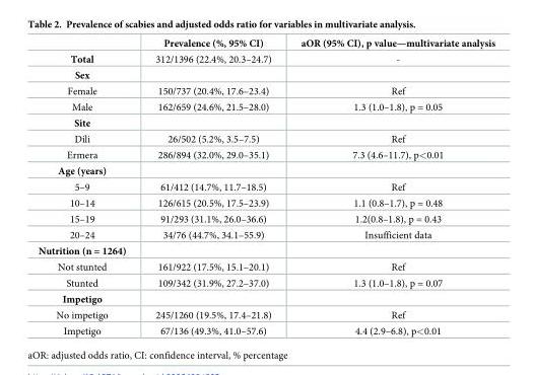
<table><thead><tr><td></td><td>Prevalence (%, 95% CI)</td><td>aOR (95% CI), p value—multivariate analysis</td></tr></thead><tbody><tr><td>Total</td><td>312/1396 (22.4%, 20.3–24.7)</td><td>-</td></tr><tr><td colspan="3">Sex</td></tr><tr><td>Female</td><td>150/737 (20.4%, 17.6–23.4)</td><td>Ref</td></tr><tr><td>Male</td><td>162/659 (24.6%, 21.5–28.0)</td><td>1.3 (1.0–1.8), p = 0.05</td></tr><tr><td colspan="3">Site</td></tr><tr><td>Dili</td><td>26/502 (5.2%, 3.5–7.5)</td><td>Ref</td></tr><tr><td>Ermera</td><td>286/894 (32.0%, 29.0–35.1)</td><td>7.3 (4.6–11.7), p&lt;0.01</td></tr><tr><td colspan="3">Age (years)</td></tr><tr><td>5–9</td><td>61/412 (14.7%, 11.7–18.5)</td><td>Ref</td></tr><tr><td>10–14</td><td>126/615 (20.5%, 17.5–23.9)</td><td>1.1 (0.8–1.7), p = 0.48</td></tr><tr><td>15–19</td><td>91/293 (31.1%, 26.0–36.6)</td><td>1.2(0.8–1.8), p = 0.43</td></tr><tr><td>20–24</td><td>34/76 (44.7%, 34.1–55.9)</td><td>Insufficient data</td></tr><tr><td colspan="3">Nutrition (n = 1264)</td></tr><tr><td>Not stunted</td><td>161/922 (17.5%, 15.1–20.1)</td><td>Ref</td></tr><tr><td>Stunted</td><td>109/342 (31.9%, 27.2–37.0)</td><td>1.3 (1.0–1.8), p = 0.07</td></tr><tr><td colspan="3">Impetigo</td></tr><tr><td>No impetigo</td><td>245/1260 (19.5%, 17.4–21.8)</td><td>Ref</td></tr><tr><td>Impetigo</td><td>67/136 (49.3%, 41.0–57.6)</td><td>4.4 (2.9–6.8), p&lt;0.01</td></tr></tbody></table>